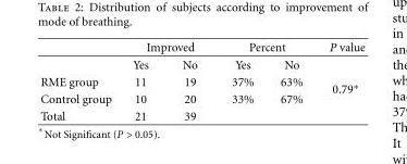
<table><thead><tr><td rowspan="2"></td><td colspan="2">Improved</td><td colspan="2">Percent</td><td rowspan="2">P value</td></tr><tr><td>Yes</td><td>No</td><td>Yes</td><td>No</td></tr></thead><tbody><tr><td>RME group</td><td>11</td><td>19</td><td>37%</td><td>63%</td><td rowspan="2">0.79∗</td></tr><tr><td>Control group</td><td>10</td><td>20</td><td>33%</td><td>67%</td></tr><tr><td>Total</td><td>21</td><td>39</td><td></td><td></td><td></td></tr></tbody></table>